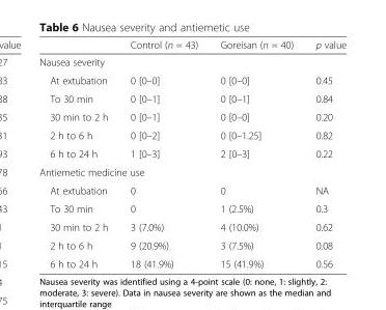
<table><thead><tr><td></td><td>Control (n = 43)</td><td>Goreisan (n = 40)</td><td>p value</td></tr></thead><tbody><tr><td colspan="4">Nausea severity</td></tr><tr><td>At extubation</td><td>0 [0–0]</td><td>0 [0–0]</td><td>0.45</td></tr><tr><td>To 30 min</td><td>0 [0–1]</td><td>0 [0–1]</td><td>0.84</td></tr><tr><td>30 min to 2 h</td><td>0 [0–1]</td><td>0 [0–0]</td><td>0.20</td></tr><tr><td>2 h to 6 h</td><td>0 [0–2]</td><td>0 [0–1.25]</td><td>0.82</td></tr><tr><td>6 h to 24 h</td><td>1 [0–3]</td><td>2 [0–3]</td><td>0.22</td></tr><tr><td colspan="4">Antiemetic medicine use</td></tr><tr><td>At extubation</td><td>0</td><td>0</td><td>NA</td></tr><tr><td>To 30 min</td><td>0</td><td>1 (2.5%)</td><td>0.3</td></tr><tr><td>30 min to 2 h</td><td>3 (7.0%)</td><td>4 (10.0%)</td><td>0.62</td></tr><tr><td>2 h to 6 h</td><td>9 (20.9%)</td><td>3 (7.5%)</td><td>0.08</td></tr><tr><td>6 h to 24 h</td><td>18 (41.9%)</td><td>15 (41.9%)</td><td>0.56</td></tr></tbody></table>